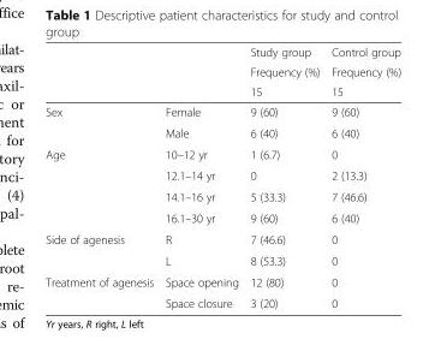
<table><thead><tr><td rowspan="3"></td><td rowspan="3"></td><td rowspan="3">Study group Frequency (%) 15</td><td rowspan="3">Control group Frequency (%) 15</td></tr><tr></tr><tr></tr></thead><tbody><tr><td rowspan="2">Sex</td><td>Female</td><td>9 (60)</td><td>9 (60)</td></tr><tr><td>Male</td><td>6 (40)</td><td>6 (40)</td></tr><tr><td rowspan="4">Age</td><td>10–12 yr</td><td>1 (6.7)</td><td>0</td></tr><tr><td>12.1–14 yr</td><td>0</td><td>2 (13.3)</td></tr><tr><td>14.1–16 yr</td><td>5 (33.3)</td><td>7 (46.6)</td></tr><tr><td>16.1–30 yr</td><td>9 (60)</td><td>6 (40)</td></tr><tr><td rowspan="2">Side of agenesis</td><td>R</td><td>7 (46.6)</td><td>0</td></tr><tr><td>L</td><td>8 (53.3)</td><td>0</td></tr><tr><td rowspan="2">Treatment of agenesis</td><td>Space opening</td><td>12 (80)</td><td>0</td></tr><tr><td>Space closure</td><td>3 (20)</td><td>0</td></tr></tbody></table>